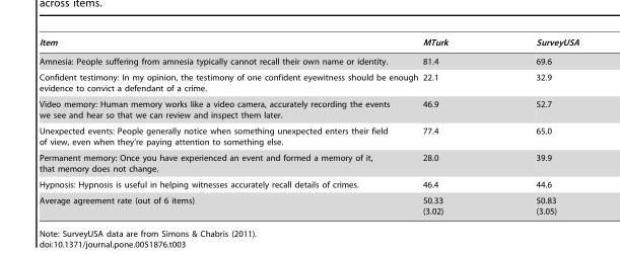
<table><thead><tr><td>Item</td><td>MTurk</td><td>SurveyUSA</td></tr></thead><tbody><tr><td>Amnesia: People suffering from amnesia typically cannot recall their own name or identity.</td><td>81.4</td><td>69.6</td></tr><tr><td>Confident testimony: In my opinion, the testimony of one confident eyewitness should be enough evidence to convict a defendant of a crime.</td><td>22.1</td><td>32.9</td></tr><tr><td>Video memory: Human memory works like a video camera, accurately recording the events we see and hear so that we can review and inspect them later.</td><td>46.9</td><td>52.7</td></tr><tr><td>Unexpected events: People generally notice when something unexpected enters their field of view, even when they’re paying attention to something else.</td><td>77.4</td><td>65.0</td></tr><tr><td>Permanent memory: Once you have experienced an event and formed a memory of it, that memory does not change.</td><td>28.0</td><td>39.9</td></tr><tr><td>Hypnosis: Hypnosis is useful in helping witnesses accurately recall details of crimes.</td><td>46.4</td><td>44.6</td></tr><tr><td>Average agreement rate (out of 6 items)</td><td>50.33 (3.02)</td><td>50.83 (3.05)</td></tr></tbody></table>